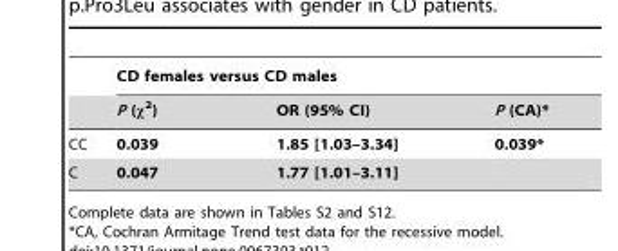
<table><thead><tr><td rowspan="2"></td><td colspan="3">CD females versus CD males</td></tr><tr><td>P (χ<sup>2</sup>)</td><td>OR (95% CI)</td><td>P (CA)*</td></tr></thead><tbody><tr><td>CC</td><td>0.039</td><td>1.85 [1.03–3.34]</td><td>0.039*</td></tr><tr><td>C</td><td>0.047</td><td>1.77 [1.01–3.11]</td><td></td></tr></tbody></table>